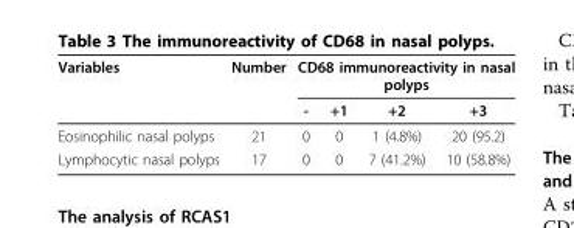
<table><thead><tr><td rowspan="2">Variables</td><td rowspan="2">Number</td><td colspan="4">CD68 immunoreactivity in nasal polyps</td></tr><tr><td>-</td><td>+1</td><td>+2</td><td>+3</td></tr></thead><tbody><tr><td>Eosinophilic nasal polyps</td><td>21</td><td>0</td><td>0</td><td>1 (4.8%)</td><td>20 (95.2)</td></tr><tr><td>Lymphocytic nasal polyps</td><td>17</td><td>0</td><td>0</td><td>7 (41.2%)</td><td>10 (58.8%)</td></tr></tbody></table>